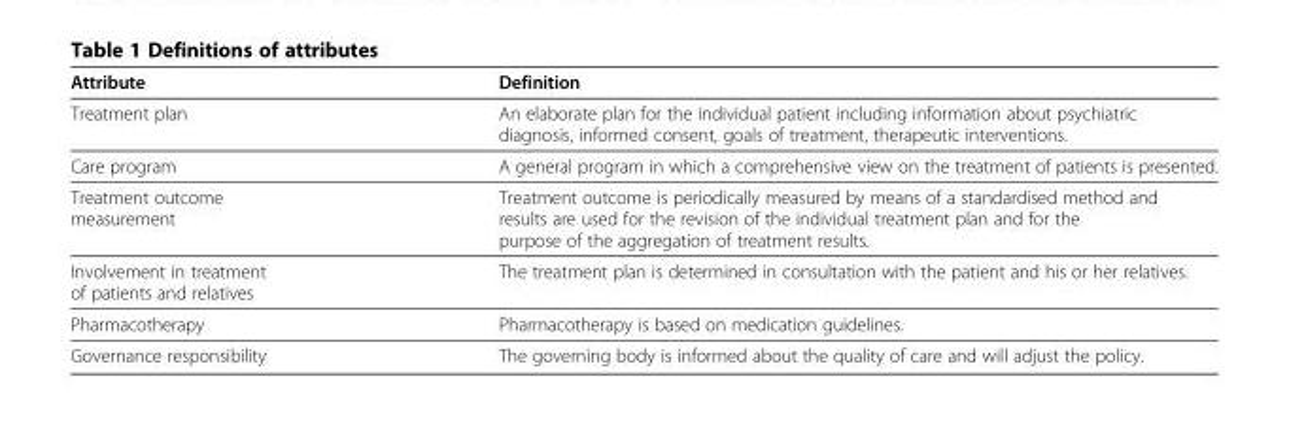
<table><thead><tr><td>Attribute</td><td>Definition</td></tr></thead><tbody><tr><td>Treatment plan</td><td>An elaborate plan for the individual patient including information about psychiatric diagnosis, informed consent, goals of treatment, therapeutic interventions.</td></tr><tr><td>Care program</td><td>A general program in which a comprehensive view on the treatment of patients is presented.</td></tr><tr><td>Treatment outcome measurement</td><td>Treatment outcome is periodically measured by means of a standardised method and results are used for the revision of the individual treatment plan and for the purpose of the aggregation of treatment results.</td></tr><tr><td>Involvement in treatment of patients and relatives</td><td>The treatment plan is determined in consultation with the patient and his or her relatives.</td></tr><tr><td>Pharmacotherapy</td><td>Pharmacotherapy is based on medication guidelines.</td></tr><tr><td>Governance responsibility</td><td>The governing body is informed about the quality of care and will adjust the policy.</td></tr></tbody></table>